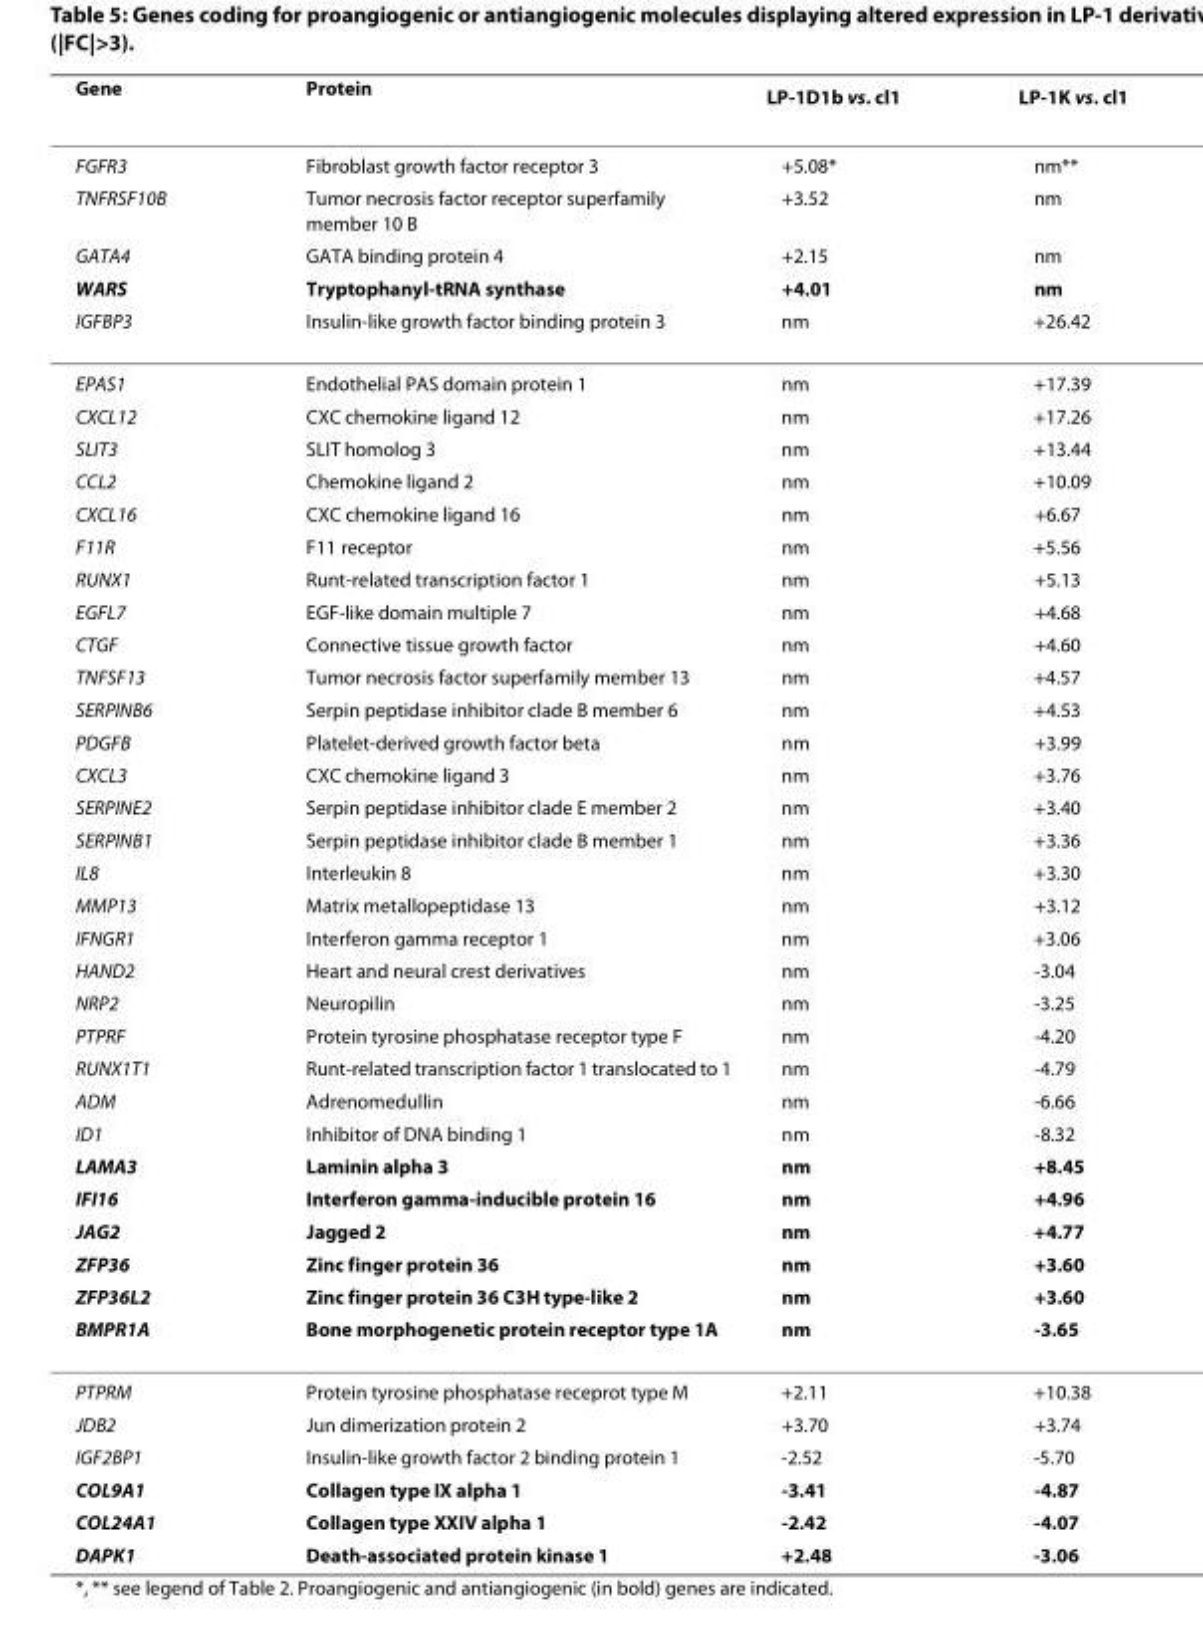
<table><thead><tr><td>Gene</td><td>Protein</td><td>LP-1D1b vs. cl1</td><td>LP-1K vs. cl1</td></tr></thead><tbody><tr><td>FGFR3</td><td>Fibroblast growth factor receptor 3</td><td>+5.08*</td><td>nm**</td></tr><tr><td>TNFRSF10B</td><td>Tumor necrosis factor receptor superfamily member 10 B</td><td>+3.52</td><td>nm</td></tr><tr><td>GATA4</td><td>GATA binding protein 4</td><td>+2.15</td><td>nm</td></tr><tr><td>WARS</td><td>Tryptophanyl-tRNA synthase</td><td>+4.01</td><td>nm</td></tr><tr><td>IGFBP3</td><td>Insulin-like growth factor binding protein 3</td><td>nm</td><td>+26.42</td></tr><tr><td>EPAS1</td><td>Endothelial PAS domain protein 1</td><td>nm</td><td>+17.39</td></tr><tr><td>CXCL12</td><td>CXC chemokine ligand 12</td><td>nm</td><td>+17.26</td></tr><tr><td>SLIT3</td><td>SLIT homolog 3</td><td>nm</td><td>+13.44</td></tr><tr><td>CCL2</td><td>Chemokine ligand 2</td><td>nm</td><td>+10.09</td></tr><tr><td>CXCL16</td><td>CXC chemokine ligand 16</td><td>nm</td><td>+6.67</td></tr><tr><td>F11R</td><td>F11 receptor</td><td>nm</td><td>+5.56</td></tr><tr><td>RUNX1</td><td>Runt-related transcription factor 1</td><td>nm</td><td>+5.13</td></tr><tr><td>EGFL7</td><td>EGF-like domain multiple 7</td><td>nm</td><td>+4.68</td></tr><tr><td>CTGF</td><td>Connective tissue growth factor</td><td>nm</td><td>+4.60</td></tr><tr><td>TNFSF13</td><td>Tumor necrosis factor superfamily member 13</td><td>nm</td><td>+4.57</td></tr><tr><td>SERPINB6</td><td>Serpin peptidase inhibitor clade B member 6</td><td>nm</td><td>+4.53</td></tr><tr><td>PDGFB</td><td>Platelet-derived growth factor beta</td><td>nm</td><td>+3.99</td></tr><tr><td>CXCL3</td><td>CXC chemokine ligand 3</td><td>nm</td><td>+3.76</td></tr><tr><td>SERPINE2</td><td>Serpin peptidase inhibitor clade E member 2</td><td>nm</td><td>+3.40</td></tr><tr><td>SERPINB1</td><td>Serpin peptidase inhibitor clade B member 1</td><td>nm</td><td>+3.36</td></tr><tr><td>IL8</td><td>Interleukin 8</td><td>nm</td><td>+3.30</td></tr><tr><td>MMP13</td><td>Matrix metallopeptidase 13</td><td>nm</td><td>+3.12</td></tr><tr><td>IFNGR1</td><td>Interferon gamma receptor 1</td><td>nm</td><td>+3.06</td></tr><tr><td>HAND2</td><td>Heart and neural crest derivatives</td><td>nm</td><td>-3.04</td></tr><tr><td>NRP2</td><td>Neuropilin</td><td>nm</td><td>-3.25</td></tr><tr><td>PTPRF</td><td>Protein tyrosine phosphatase receptor type F</td><td>nm</td><td>-4.20</td></tr><tr><td>RUNX1T1</td><td>Runt-related transcription factor 1 translocated to 1</td><td>nm</td><td>-4.79</td></tr><tr><td>ADM</td><td>Adrenomedullin</td><td>nm</td><td>-6.66</td></tr><tr><td>ID1</td><td>Inhibitor of DNA binding 1</td><td>nm</td><td>-8.32</td></tr><tr><td>LAMA3</td><td>Laminin alpha 3</td><td>nm</td><td>+8.45</td></tr><tr><td>IFI16</td><td>Interferon gamma-inducible protein 16</td><td>nm</td><td>+4.96</td></tr><tr><td>JAG2</td><td>Jagged 2</td><td>nm</td><td>+4.77</td></tr><tr><td>ZFP36</td><td>Zinc finger protein 36</td><td>nm</td><td>+3.60</td></tr><tr><td>ZFP36L2</td><td>Zinc finger protein 36 C3H type-like 2</td><td>nm</td><td>+3.60</td></tr><tr><td>BMPR1A</td><td>Bone morphogenetic protein receptor type 1A</td><td>nm</td><td>-3.65</td></tr><tr><td>PTPRM</td><td>Protein tyrosine phosphatase receprot type M</td><td>+2.11</td><td>+10.38</td></tr><tr><td>JDB2</td><td>Jun dimerization protein 2</td><td>+3.70</td><td>+3.74</td></tr><tr><td>IGF2BP1</td><td>Insulin-like growth factor 2 binding protein 1</td><td>-2.52</td><td>-5.70</td></tr><tr><td>COL9A1</td><td>Collagen type IX alpha 1</td><td>-3.41</td><td>-4.87</td></tr><tr><td>COL24A1</td><td>Collagen type XXIV alpha 1</td><td>-2.42</td><td>-4.07</td></tr><tr><td>DAPK1</td><td>Death-associated protein kinase 1</td><td>+2.48</td><td>-3.06</td></tr></tbody></table>